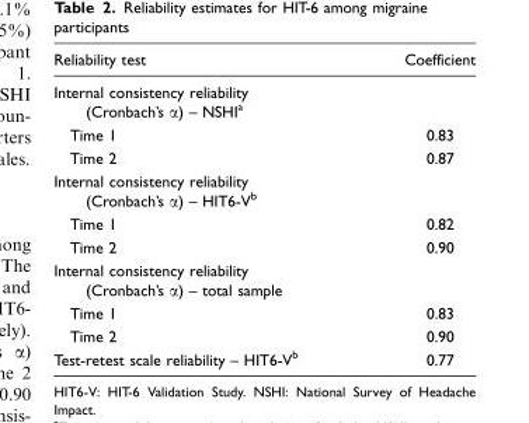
<table><thead><tr><td>Reliability test</td><td>Coefficient</td></tr></thead><tbody><tr><td colspan="2">Internal consistency reliability (Cronbach’s α) – NSHI<sup>a</sup></td></tr><tr><td>Time 1</td><td>0.83</td></tr><tr><td>Time 2</td><td>0.87</td></tr><tr><td colspan="2">Internal consistency reliability (Cronbach’s α) – HIT6-V<sup>b</sup></td></tr><tr><td>Time 1</td><td>0.82</td></tr><tr><td>Time 2</td><td>0.90</td></tr><tr><td colspan="2">Internal consistency reliability (Cronbach’s α) – total sample</td></tr><tr><td>Time 1</td><td>0.83</td></tr><tr><td>Time 2</td><td>0.90</td></tr><tr><td>Test-retest scale reliability – HIT6-V<sup>b</sup></td><td>0.77</td></tr></tbody></table>